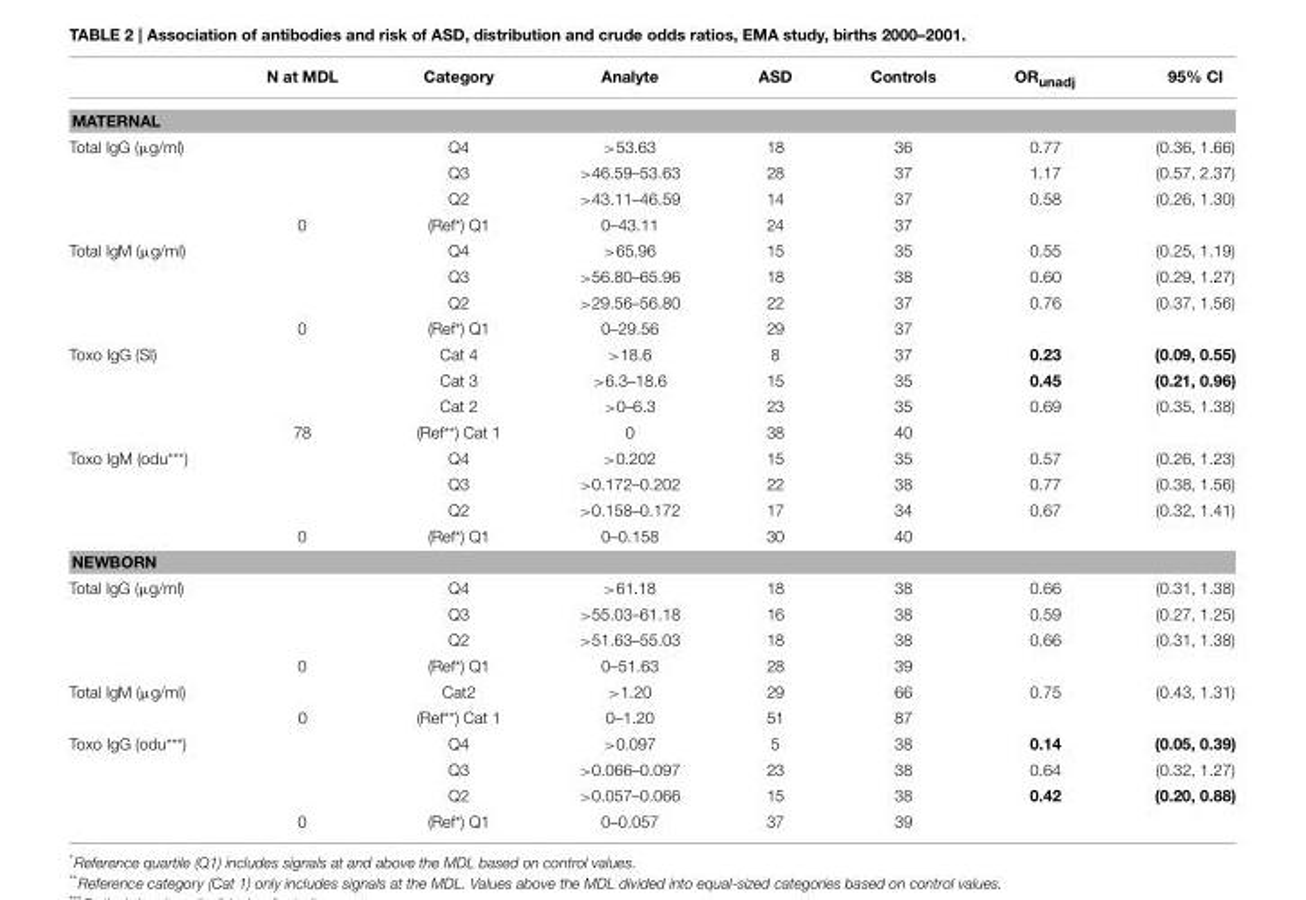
<table><thead><tr><td></td><td>N at MDL</td><td>Category</td><td>Analyte</td><td>ASD</td><td>Controls</td><td>OR<sub>unadj</sub></td><td>95% CI</td></tr></thead><tbody><tr><td colspan="8">MATERNAL</td></tr><tr><td rowspan="4">Total IgG (µg/ml)</td><td></td><td>Q4</td><td>&gt;53.63</td><td>18</td><td>36</td><td>0.77</td><td>(0.36, 1.66)</td></tr><tr><td></td><td>Q3</td><td>&gt;46.59–53.63</td><td>28</td><td>37</td><td>1.17</td><td>(0.57, 2.37)</td></tr><tr><td></td><td>Q2</td><td>&gt;43.11–46.59</td><td>14</td><td>37</td><td>0.58</td><td>(0.26, 1.30)</td></tr><tr><td>0</td><td>(Ref*) Q1</td><td>0–43.11</td><td>24</td><td>37</td><td></td><td></td></tr><tr><td rowspan="4">Total IgM (µg/ml)</td><td></td><td>Q4</td><td>&gt;65.96</td><td>15</td><td>35</td><td>0.55</td><td>(0.25, 1.19)</td></tr><tr><td></td><td>Q3</td><td>&gt;56.80–65.96</td><td>18</td><td>38</td><td>0.60</td><td>(0.29, 1.27)</td></tr><tr><td></td><td>Q2</td><td>&gt;29.56–56.80</td><td>22</td><td>37</td><td>0.76</td><td>(0.37, 1.56)</td></tr><tr><td>0</td><td>(Ref*) Q1</td><td>0–29.56</td><td>29</td><td>37</td><td></td><td></td></tr><tr><td rowspan="4">Toxo IgG (SI)</td><td></td><td>Cat 4</td><td>&gt;18.6</td><td>8</td><td>37</td><td>0.23</td><td>(0.09, 0.55)</td></tr><tr><td></td><td>Cat 3</td><td>&gt;6.3–18.6</td><td>15</td><td>35</td><td>0.45</td><td>(0.21, 0.96)</td></tr><tr><td></td><td>Cat 2</td><td>&gt;0–6.3</td><td>23</td><td>35</td><td>0.69</td><td>(0.35, 1.38)</td></tr><tr><td>78</td><td>(Ref**) Cat 1</td><td>0</td><td>38</td><td>40</td><td></td><td></td></tr><tr><td rowspan="4">Toxo IgM (odu***)</td><td></td><td>Q4</td><td>&gt;0.202</td><td>15</td><td>35</td><td>0.57</td><td>(0.26, 1.23)</td></tr><tr><td></td><td>Q3</td><td>&gt;0.172–0.202</td><td>22</td><td>38</td><td>0.77</td><td>(0.38, 1.56)</td></tr><tr><td></td><td>Q2</td><td>&gt;0.158–0.172</td><td>17</td><td>34</td><td>0.67</td><td>(0.32, 1.41)</td></tr><tr><td>0</td><td>(Ref*) Q1</td><td>0–0.158</td><td>30</td><td>40</td><td></td><td></td></tr><tr><td colspan="8">NEWBORN</td></tr><tr><td rowspan="4">Total IgG (µg/ml)</td><td></td><td>Q4</td><td>&gt;61.18</td><td>18</td><td>38</td><td>0.66</td><td>(0.31, 1.38)</td></tr><tr><td></td><td>Q3</td><td>&gt;55.03–61.18</td><td>16</td><td>38</td><td>0.59</td><td>(0.27, 1.25)</td></tr><tr><td></td><td>Q2</td><td>&gt;51.63–55.03</td><td>18</td><td>38</td><td>0.66</td><td>(0.31, 1.38)</td></tr><tr><td>0</td><td>(Ref*) Q1</td><td>0–51.63</td><td>28</td><td>39</td><td></td><td></td></tr><tr><td rowspan="2">Total IgM (µg/ml)</td><td></td><td>Cat2</td><td>&gt;1.20</td><td>29</td><td>66</td><td>0.75</td><td>(0.43, 1.31)</td></tr><tr><td>0</td><td>(Ref**) Cat 1</td><td>0–1.20</td><td>51</td><td>87</td><td></td><td></td></tr><tr><td rowspan="4">Toxo IgG (odu***)</td><td></td><td>Q4</td><td>&gt;0.097</td><td>5</td><td>38</td><td>0.14</td><td>(0.05, 0.39)</td></tr><tr><td></td><td>Q3</td><td>&gt;0.066–0.097</td><td>23</td><td>38</td><td>0.64</td><td>(0.32, 1.27)</td></tr><tr><td></td><td>Q2</td><td>&gt;0.057–0.066</td><td>15</td><td>38</td><td>0.42</td><td>(0.20, 0.88)</td></tr><tr><td>0</td><td>(Ref*) Q1</td><td>0–0.057</td><td>37</td><td>39</td><td></td><td></td></tr></tbody></table>